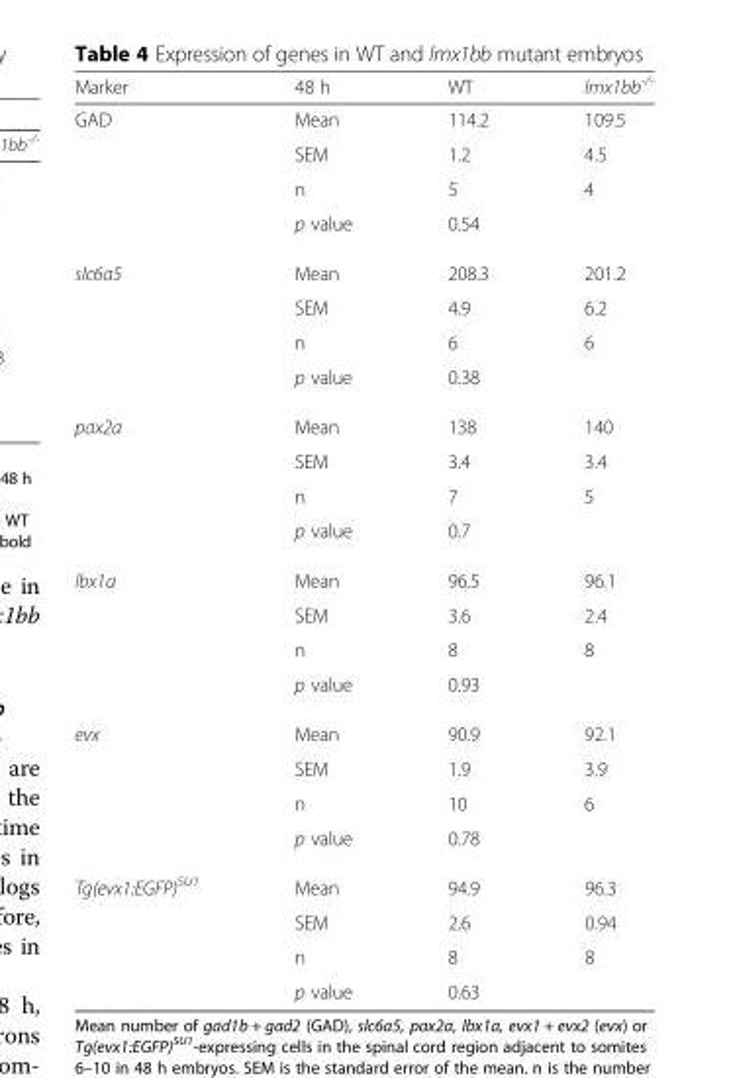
<table><thead><tr><td>Marker</td><td>48 h</td><td>WT</td><td>lmx1bb<sup>-/-</sup></td></tr></thead><tbody><tr><td rowspan="4">GAD</td><td>Mean</td><td>114.2</td><td>109.5</td></tr><tr><td>SEM</td><td>1.2</td><td>4.5</td></tr><tr><td>n</td><td>5</td><td>4</td></tr><tr><td>p value</td><td colspan="2">0.54</td></tr><tr><td rowspan="4">slc6a5</td><td>Mean</td><td>208.3</td><td>201.2</td></tr><tr><td>SEM</td><td>4.9</td><td>6.2</td></tr><tr><td>n</td><td>6</td><td>6</td></tr><tr><td>p value</td><td colspan="2">0.38</td></tr><tr><td rowspan="4">pax2a</td><td>Mean</td><td>138</td><td>140</td></tr><tr><td>SEM</td><td>3.4</td><td>3.4</td></tr><tr><td>n</td><td>7</td><td>5</td></tr><tr><td>p value</td><td colspan="2">0.7</td></tr><tr><td rowspan="4">lbx1a</td><td>Mean</td><td>96.5</td><td>96.1</td></tr><tr><td>SEM</td><td>3.6</td><td>2.4</td></tr><tr><td>n</td><td>8</td><td>8</td></tr><tr><td>p value</td><td colspan="2">0.93</td></tr><tr><td rowspan="4">evx</td><td>Mean</td><td>90.9</td><td>92.1</td></tr><tr><td>SEM</td><td>1.9</td><td>3.9</td></tr><tr><td>n</td><td>10</td><td>6</td></tr><tr><td>p value</td><td colspan="2">0.78</td></tr><tr><td rowspan="4">Tg(evx1:EGFP)<sup>SU1</sup></td><td>Mean</td><td>94.9</td><td>96.3</td></tr><tr><td>SEM</td><td>2.6</td><td>0.94</td></tr><tr><td>n</td><td>8</td><td>8</td></tr><tr><td>p value</td><td colspan="2">0.63</td></tr></tbody></table>